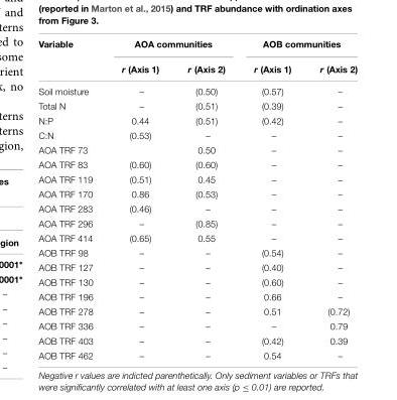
<table><thead><tr><td rowspan="2">Variable</td><td colspan="2">AOA communities</td><td colspan="2">AOB communities</td></tr><tr><td>r (Axis 1)</td><td>r (Axis 2)</td><td>r (Axis 1)</td><td>r (Axis 2)</td></tr></thead><tbody><tr><td>Soil moisture</td><td>–</td><td>(0.50)</td><td>(0.57)</td><td>–</td></tr><tr><td>Total N</td><td>–</td><td>(0.51)</td><td>(0.39)</td><td>–</td></tr><tr><td>N:P</td><td>0.44</td><td>(0.51)</td><td>(0.42)</td><td>–</td></tr><tr><td>C:N</td><td>(0.53)</td><td>–</td><td>–</td><td>–</td></tr><tr><td>AOA TRF 73</td><td></td><td>0.50</td><td>–</td><td>–</td></tr><tr><td>AOA TRF 83</td><td>(0.60)</td><td>(0.60)</td><td>–</td><td>–</td></tr><tr><td>AOA TRF 119</td><td>(0.51)</td><td>0.45</td><td>–</td><td>–</td></tr><tr><td>AOA TRF 170</td><td>0.86</td><td>(0.53)</td><td>–</td><td>–</td></tr><tr><td>AOA TRF 283</td><td>(0.46)</td><td>–</td><td>–</td><td>–</td></tr><tr><td>AOA TRF 296</td><td>–</td><td>(0.85)</td><td>–</td><td>–</td></tr><tr><td>AOA TRF 414</td><td>(0.65)</td><td>0.55</td><td>–</td><td>–</td></tr><tr><td>AOB TRF 98</td><td>–</td><td>–</td><td>(0.54)</td><td>–</td></tr><tr><td>AOB TRF 127</td><td>–</td><td>–</td><td>(0.40)</td><td>–</td></tr><tr><td>AOB TRF 130</td><td>–</td><td>–</td><td>(0.60)</td><td>–</td></tr><tr><td>AOB TRF 196</td><td>–</td><td>–</td><td>0.66</td><td>–</td></tr><tr><td>AOB TRF 278</td><td>–</td><td>–</td><td>0.51</td><td>(0.72)</td></tr><tr><td>AOB TRF 336</td><td>–</td><td>–</td><td>–</td><td>0.79</td></tr><tr><td>AOB TRF 403</td><td>–</td><td>–</td><td>(0.42)</td><td>0.39</td></tr><tr><td>AOB TRF 462</td><td>–</td><td>–</td><td>0.54</td><td>–</td></tr></tbody></table>